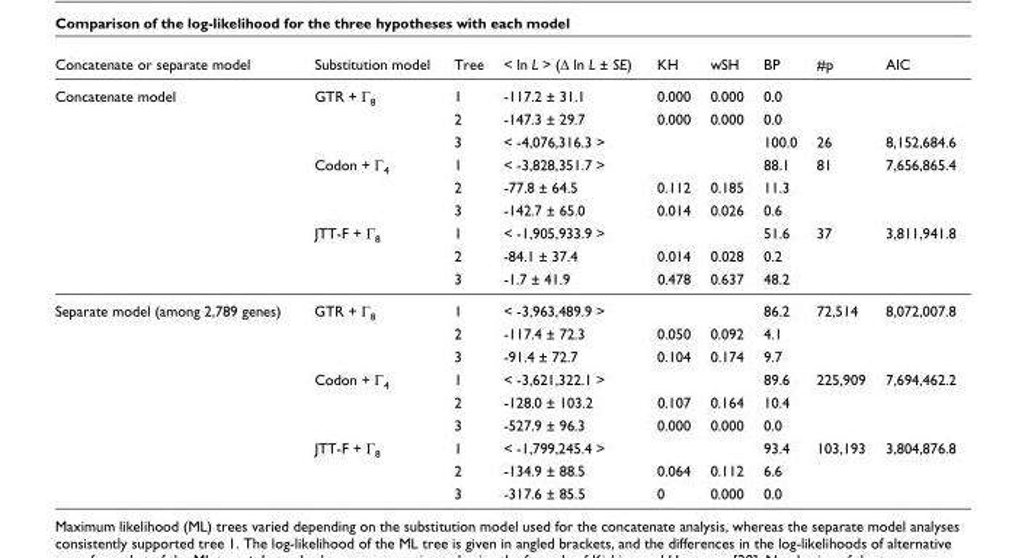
<table><thead><tr><td>Concatenate or separate model</td><td>Substitution model</td><td>Tree</td><td>&lt; ln L &gt; (Δ ln L ± SE)</td><td>KH</td><td>wSH</td><td>BP</td><td>#p</td><td>AIC</td></tr></thead><tbody><tr><td rowspan="9">Concatenate model</td><td>GTR + Γ<sub>8</sub></td><td>1</td><td>-117.2 ± 31.1</td><td>0.000</td><td>0.000</td><td>0.0</td><td></td><td></td></tr><tr><td></td><td>2</td><td>-147.3 ± 29.7</td><td>0.000</td><td>0.000</td><td>0.0</td><td></td><td></td></tr><tr><td></td><td>3</td><td>&lt; -4,076,316.3 &gt;</td><td></td><td></td><td>100.0</td><td>26</td><td>8,152,684.6</td></tr><tr><td>Codon + Γ<sub>4</sub></td><td>1</td><td>&lt; -3,828,351.7 &gt;</td><td></td><td></td><td>88.1</td><td>81</td><td>7,656,865.4</td></tr><tr><td></td><td>2</td><td>-77.8 ± 64.5</td><td>0.112</td><td>0.185</td><td>11.3</td><td></td><td></td></tr><tr><td></td><td>3</td><td>-142.7 ± 65.0</td><td>0.014</td><td>0.026</td><td>0.6</td><td></td><td></td></tr><tr><td>JTT-F + Γ<sub>8</sub></td><td>1</td><td>&lt; -1,905,933.9 &gt;</td><td></td><td></td><td>51.6</td><td>37</td><td>3,811,941.8</td></tr><tr><td></td><td>2</td><td>-84.1 ± 37.4</td><td>0.014</td><td>0.028</td><td>0.2</td><td></td><td></td></tr><tr><td></td><td>3</td><td>-1.7 ± 41.9</td><td>0.478</td><td>0.637</td><td>48.2</td><td></td><td></td></tr><tr><td rowspan="9">Separate model (among 2,789 genes)</td><td>GTR + Γ<sub>8</sub></td><td>1</td><td>&lt; -3,963,489.9 &gt;</td><td></td><td></td><td>86.2</td><td>72,514</td><td>8,072,007.8</td></tr><tr><td></td><td>2</td><td>-117.4 ± 72.3</td><td>0.050</td><td>0.092</td><td>4.1</td><td></td><td></td></tr><tr><td></td><td>3</td><td>-91.4 ± 72.7</td><td>0.104</td><td>0.174</td><td>9.7</td><td></td><td></td></tr><tr><td>Codon + Γ<sub>4</sub></td><td>1</td><td>&lt; -3,621,322.1 &gt;</td><td></td><td></td><td>89.6</td><td>225,909</td><td>7,694,462.2</td></tr><tr><td></td><td>2</td><td>-128.0 ± 103.2</td><td>0.107</td><td>0.164</td><td>10.4</td><td></td><td></td></tr><tr><td></td><td>3</td><td>-527.9 ± 96.3</td><td>0.000</td><td>0.000</td><td>0.0</td><td></td><td></td></tr><tr><td>JTT-F + Γ<sub>8</sub></td><td>1</td><td>&lt; -1,799,245.4 &gt;</td><td></td><td></td><td>93.4</td><td>103,193</td><td>3,804,876.8</td></tr><tr><td></td><td>2</td><td>-134.9 ± 88.5</td><td>0.064</td><td>0.112</td><td>6.6</td><td></td><td></td></tr><tr><td></td><td>3</td><td>-317.6 ± 85.5</td><td>0</td><td>0.000</td><td>0.0</td><td></td><td></td></tr></tbody></table>